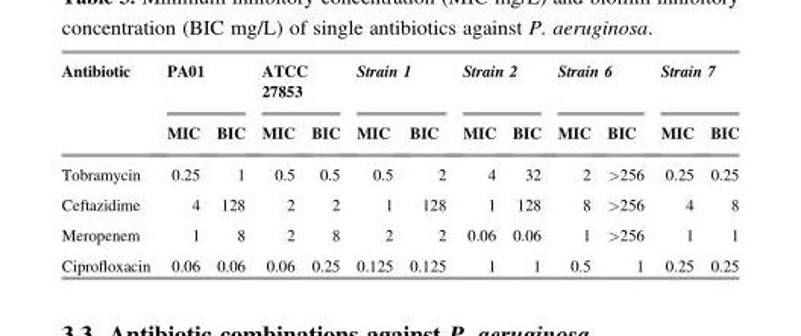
<table><thead><tr><td rowspan="2">Antibiotic</td><td colspan="2">PA01</td><td colspan="2">ATCC 27853</td><td colspan="2">Strain 1</td><td colspan="2">Strain 2</td><td colspan="2">Strain 6</td><td colspan="2">Strain 7</td></tr><tr><td>MIC</td><td>BIC</td><td>MIC</td><td>BIC</td><td>MIC</td><td>BIC</td><td>MIC</td><td>BIC</td><td>MIC</td><td>BIC</td><td>MIC</td><td>BIC</td></tr></thead><tbody><tr><td>Tobramycin</td><td>0.25</td><td>1</td><td>0.5</td><td>0.5</td><td>0.5</td><td>2</td><td>4</td><td>32</td><td>2</td><td>&gt;256</td><td>0.25</td><td>0.25</td></tr><tr><td>Ceftazidime</td><td>4</td><td>128</td><td>2</td><td>2</td><td>1</td><td>128</td><td>1</td><td>128</td><td>8</td><td>&gt;256</td><td>4</td><td>8</td></tr><tr><td>Meropenem</td><td>1</td><td>8</td><td>2</td><td>8</td><td>2</td><td>2</td><td>0.06</td><td>0.06</td><td>1</td><td>&gt;256</td><td>1</td><td>1</td></tr><tr><td>Ciprofloxacin</td><td>0.06</td><td>0.06</td><td>0.06</td><td>0.25</td><td>0.125</td><td>0.125</td><td>1</td><td>1</td><td>0.5</td><td>1</td><td>0.25</td><td>0.25</td></tr></tbody></table>